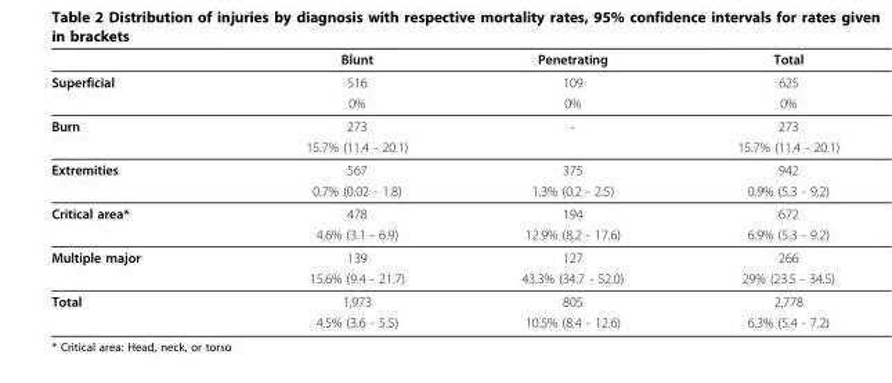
<table><thead><tr><td></td><td>Blunt</td><td>Penetrating</td><td>Total</td></tr></thead><tbody><tr><td rowspan="2">Superficial</td><td>516</td><td>109</td><td>625</td></tr><tr><td>0%</td><td>0%</td><td>0%</td></tr><tr><td rowspan="2">Burn</td><td>273</td><td>-</td><td>273</td></tr><tr><td>15.7% (11.4 - 20.1)</td><td></td><td>15.7% (11.4 - 20.1)</td></tr><tr><td rowspan="2">Extremities</td><td>567</td><td>375</td><td>942</td></tr><tr><td>0.7% (0.02 - 1.8)</td><td>1.3% (0.2 - 2.5)</td><td>0.9% (5.3 - 9.2)</td></tr><tr><td rowspan="2">Critical area*</td><td>478</td><td>194</td><td>672</td></tr><tr><td>4.6% (3.1 - 6.9)</td><td>12.9% (8.2 - 17.6)</td><td>6.9% (5.3 - 9.2)</td></tr><tr><td rowspan="2">Multiple major</td><td>139</td><td>127</td><td>266</td></tr><tr><td>15.6% (9.4 - 21.7)</td><td>43.3% (34.7 - 52.0)</td><td>29% (23.5 - 34.5)</td></tr><tr><td rowspan="2">Total</td><td>1,973</td><td>805</td><td>2,778</td></tr><tr><td>4.5% (3.6 - 5.5)</td><td>10.5% (8.4 - 12.6)</td><td>6.3% (5.4 - 7.2)</td></tr></tbody></table>